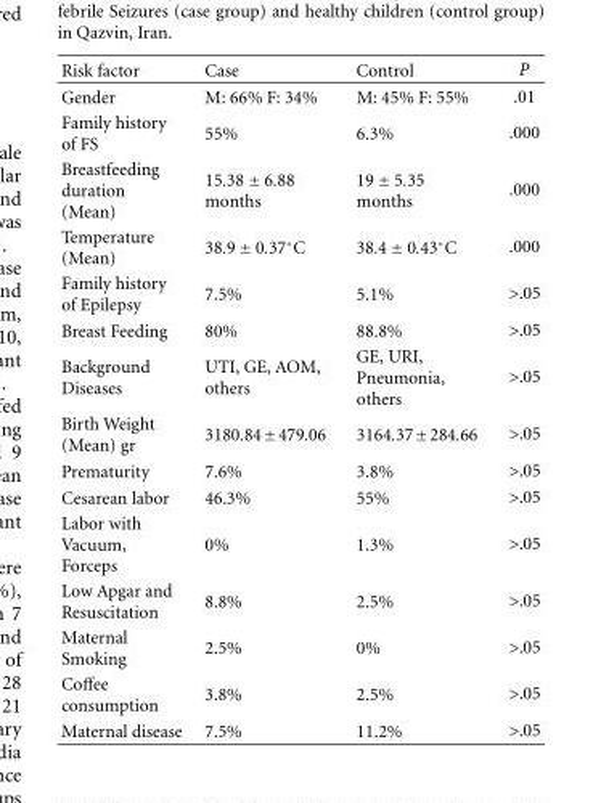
<table><thead><tr><td>Risk factor</td><td>Case</td><td>Control</td><td>P</td></tr></thead><tbody><tr><td>Gender</td><td>M: 66% F: 34%</td><td>M: 45% F: 55%</td><td>.01</td></tr><tr><td>Family history of FS</td><td>55%</td><td>6.3%</td><td>.000</td></tr><tr><td>Breastfeeding duration (Mean)</td><td>15.38 ± 6.88 months</td><td>19 ± 5.35 months</td><td>.000</td></tr><tr><td>Temperature (Mean)</td><td>38.9 ± 0.37◦C</td><td>38.4 ± 0.43◦C</td><td>.000</td></tr><tr><td>Family history of Epilepsy</td><td>7.5%</td><td>5.1%</td><td>&gt;.05</td></tr><tr><td>Breast Feeding</td><td>80%</td><td>88.8%</td><td>&gt;.05</td></tr><tr><td>Background Diseases</td><td>UTI, GE, AOM, others</td><td>GE, URI, Pneumonia, others</td><td>&gt;.05</td></tr><tr><td>Birth Weight (Mean) gr</td><td>3180.84±479.06</td><td>3164.37±284.66</td><td>&gt;.05</td></tr><tr><td>Prematurity</td><td>7.6%</td><td>3.8%</td><td>&gt;.05</td></tr><tr><td>Cesarean labor</td><td>46.3%</td><td>55%</td><td>&gt;.05</td></tr><tr><td>Labor with Vacuum, Forceps</td><td>0%</td><td>1.3%</td><td>&gt;.05</td></tr><tr><td>Low Apgar and Resuscitation</td><td>8.8%</td><td>2.5%</td><td>&gt;.05</td></tr><tr><td>Maternal Smoking</td><td>2.5%</td><td>0%</td><td>&gt;.05</td></tr><tr><td>Coffee consumption</td><td>3.8%</td><td>2.5%</td><td>&gt;.05</td></tr><tr><td>Maternal disease</td><td>7.5%</td><td>11.2%</td><td>&gt;.05</td></tr></tbody></table>